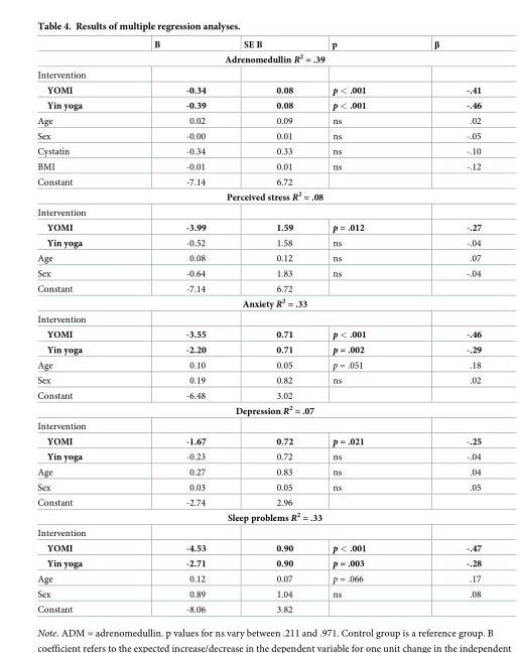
<table><thead><tr><td></td><td>B</td><td>SE B</td><td>p</td><td>β</td></tr></thead><tbody><tr><td colspan="5">Adrenomedullin R<sup>2</sup> = .39</td></tr><tr><td colspan="5">Intervention</td></tr><tr><td>YOMI</td><td>-0.34</td><td>0.08</td><td>p &lt; .001</td><td>-.41</td></tr><tr><td>Yin yoga</td><td>-0.39</td><td>0.08</td><td>p &lt; .001</td><td>-.46</td></tr><tr><td>Age</td><td>0.02</td><td>0.09</td><td>ns</td><td>.02</td></tr><tr><td>Sex</td><td>-0.00</td><td>0.01</td><td>ns</td><td>-.05</td></tr><tr><td>Cystatin</td><td>-0.34</td><td>0.33</td><td>ns</td><td>-.10</td></tr><tr><td>BMI</td><td>-0.01</td><td>0.01</td><td>ns</td><td>-.12</td></tr><tr><td>Constant</td><td>-7.14</td><td>6.72</td><td></td><td></td></tr><tr><td colspan="5">Perceived stress R<sup>2</sup> = .08</td></tr><tr><td colspan="5">Intervention</td></tr><tr><td>YOMI</td><td>-3.99</td><td>1.59</td><td>p = .012</td><td>-.27</td></tr><tr><td>Yin yoga</td><td>-0.52</td><td>1.58</td><td>ns</td><td>-.04</td></tr><tr><td>Age</td><td>0.08</td><td>0.12</td><td>ns</td><td>.07</td></tr><tr><td>Sex</td><td>-0.64</td><td>1.83</td><td>ns</td><td>-.04</td></tr><tr><td>Constant</td><td>-7.14</td><td>6.72</td><td></td><td></td></tr><tr><td colspan="5">Anxiety R<sup>2</sup> = .33</td></tr><tr><td colspan="5">Intervention</td></tr><tr><td>YOMI</td><td>-3.55</td><td>0.71</td><td>p &lt; .001</td><td>-.46</td></tr><tr><td>Yin yoga</td><td>-2.20</td><td>0.71</td><td>p = .002</td><td>-.29</td></tr><tr><td>Age</td><td>0.10</td><td>0.05</td><td>p = .051</td><td>.18</td></tr><tr><td>Sex</td><td>0.19</td><td>0.82</td><td>ns</td><td>.02</td></tr><tr><td>Constant</td><td>-6.48</td><td>3.02</td><td></td><td></td></tr><tr><td colspan="5">Depression R<sup>2</sup> = .07</td></tr><tr><td colspan="5">Intervention</td></tr><tr><td>YOMI</td><td>-1.67</td><td>0.72</td><td>p = .021</td><td>-.25</td></tr><tr><td>Yin yoga</td><td>-0.23</td><td>0.72</td><td>ns</td><td>-.04</td></tr><tr><td>Age</td><td>0.27</td><td>0.83</td><td>ns</td><td>.04</td></tr><tr><td>Sex</td><td>0.03</td><td>0.05</td><td>ns</td><td>.05</td></tr><tr><td>Constant</td><td>-2.74</td><td>2.96</td><td></td><td></td></tr><tr><td colspan="5">Sleep problems R<sup>2</sup> = .33</td></tr><tr><td colspan="5">Intervention</td></tr><tr><td>YOMI</td><td>-4.53</td><td>0.90</td><td>p &lt; .001</td><td>-.47</td></tr><tr><td>Yin yoga</td><td>-2.71</td><td>0.90</td><td>p = .003</td><td>-.28</td></tr><tr><td>Age</td><td>0.12</td><td>0.07</td><td>p = .066</td><td>.17</td></tr><tr><td>Sex</td><td>0.89</td><td>1.04</td><td>ns</td><td>.08</td></tr><tr><td>Constant</td><td>-8.06</td><td>3.82</td><td></td><td></td></tr></tbody></table>